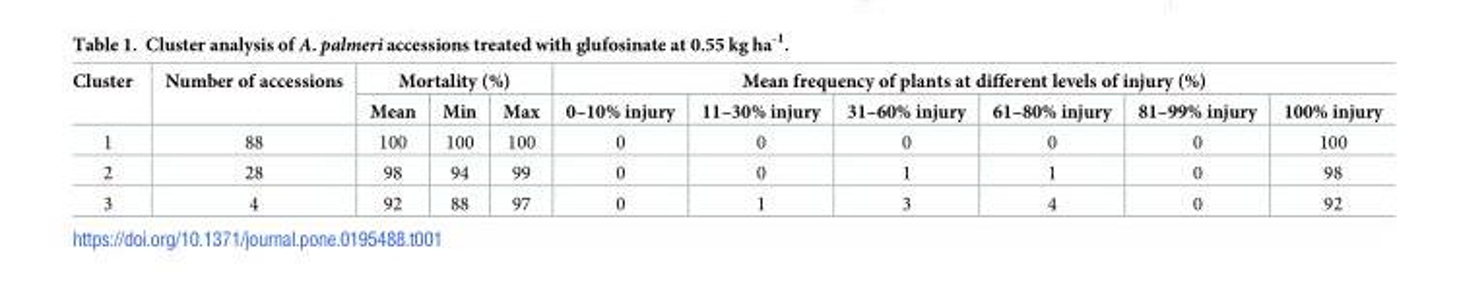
<table><thead><tr><td rowspan="2">Cluster</td><td rowspan="2">Number of accessions</td><td colspan="3">Mortality (%)</td><td colspan="6">Mean frequency of plants at different levels of injury (%)</td></tr><tr><td>Mean</td><td>Min</td><td>Max</td><td>0–10% injury</td><td>11–30% injury</td><td>31–60% injury</td><td>61–80% injury</td><td>81–99% injury</td><td>100% injury</td></tr></thead><tbody><tr><td>1</td><td>88</td><td>100</td><td>100</td><td>100</td><td>0</td><td>0</td><td>0</td><td>0</td><td>0</td><td>100</td></tr><tr><td>2</td><td>28</td><td>98</td><td>94</td><td>99</td><td>0</td><td>0</td><td>1</td><td>1</td><td>0</td><td>98</td></tr><tr><td>3</td><td>4</td><td>92</td><td>88</td><td>97</td><td>0</td><td>1</td><td>3</td><td>4</td><td>0</td><td>92</td></tr></tbody></table>